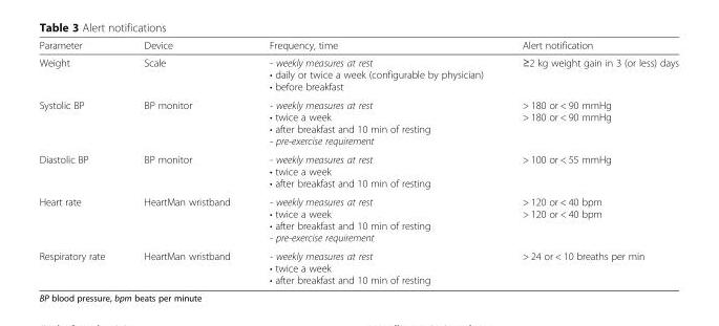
<table><thead><tr><td>Parameter</td><td>Device</td><td>Frequency, time</td><td>Alert notification</td></tr></thead><tbody><tr><td>Weight</td><td>Scale</td><td>- weekly measures at rest • daily or twice a week (configurable by physician) • before breakfast</td><td>≥2 kg weight gain in 3 (or less) days</td></tr><tr><td>Systolic BP</td><td>BP monitor</td><td>- weekly measures at rest • twice a week • after breakfast and 10 min of resting - pre-exercise requirement</td><td>&gt; 180 or &lt; 90 mmHg &gt; 180 or &lt; 90 mmHg</td></tr><tr><td>Diastolic BP</td><td>BP monitor</td><td>- weekly measures at rest • twice a week • after breakfast and 10 min of resting</td><td>&gt; 100 or &lt; 55 mmHg</td></tr><tr><td>Heart rate</td><td>HeartMan wristband</td><td>- weekly measures at rest • twice a week • after breakfast and 10 min of resting - pre-exercise requirement</td><td>&gt; 120 or &lt; 40 bpm &gt; 120 or &lt; 40 bpm</td></tr><tr><td>Respiratory rate</td><td>HeartMan wristband</td><td>- weekly measures at rest • twice a week • after breakfast and 10 min of resting</td><td>&gt; 24 or &lt; 10 breaths per min</td></tr></tbody></table>